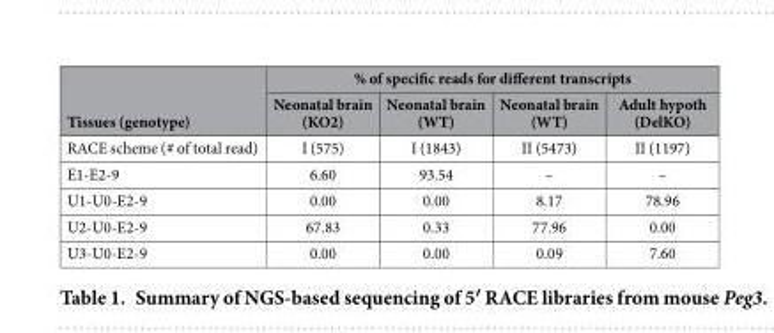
<table><thead><tr><td rowspan="2">Tissues (genotype)</td><td colspan="4">% of specific reads for different transcripts</td></tr><tr><td>Neonatal brain (KO2)</td><td>Neonatal brain (WT)</td><td>Neonatal brain (WT)</td><td>Adult hypoth (DelKO)</td></tr></thead><tbody><tr><td>RACE scheme (# of total read)</td><td>I (575)</td><td>I (1843)</td><td>II (5473)</td><td>II (1197)</td></tr><tr><td>E1-E2-9</td><td>6.60</td><td>93.54</td><td>–</td><td>–</td></tr><tr><td>U1-U0-E2-9</td><td>0.00</td><td>0.00</td><td>8.17</td><td>78.96</td></tr><tr><td>U2-U0-E2-9</td><td>67.83</td><td>0.33</td><td>77.96</td><td>0.00</td></tr><tr><td>U3-U0-E2-9</td><td>0.00</td><td>0.00</td><td>0.09</td><td>7.60</td></tr></tbody></table>